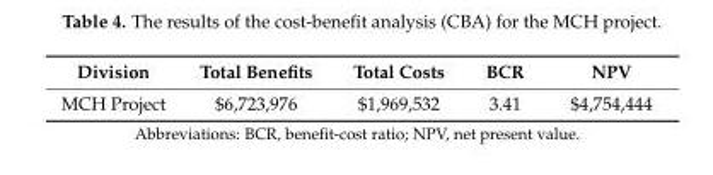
<table><thead><tr><td>Division</td><td>Total Benefits</td><td>Total Costs</td><td>BCR</td><td>NPV</td></tr></thead><tbody><tr><td>MCH Project</td><td>$6,723,976</td><td>$1,969,532</td><td>3.41</td><td>$4,754,444</td></tr></tbody></table>